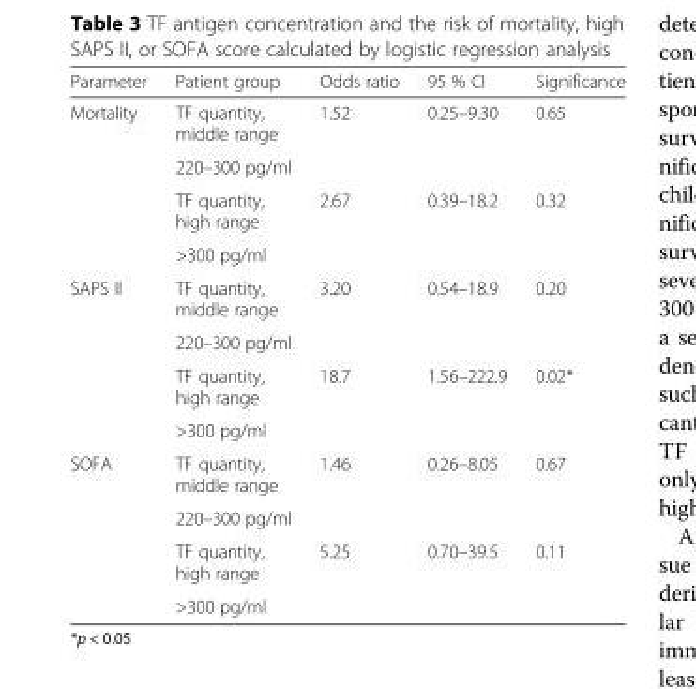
<table><thead><tr><td>Parameter</td><td>Patient group</td><td>Odds ratio</td><td>95 % CI</td><td>Significance</td></tr></thead><tbody><tr><td rowspan="4">Mortality</td><td>TF quantity, middle range</td><td rowspan="2">1.52</td><td rowspan="2">0.25–9.30</td><td rowspan="2">0.65</td></tr><tr><td>220–300 pg/ml</td></tr><tr><td>TF quantity, high range</td><td rowspan="2">2.67</td><td rowspan="2">0.39–18.2</td><td rowspan="2">0.32</td></tr><tr><td>&gt;300 pg/ml</td></tr><tr><td rowspan="4">SAPS II</td><td>TF quantity, middle range</td><td rowspan="2">3.20</td><td rowspan="2">0.54–18.9</td><td rowspan="2">0.20</td></tr><tr><td>220–300 pg/ml</td></tr><tr><td>TF quantity, high range</td><td rowspan="2">18.7</td><td rowspan="2">1.56–222.9</td><td rowspan="2">0.02*</td></tr><tr><td>&gt;300 pg/ml</td></tr><tr><td rowspan="4">SOFA</td><td>TF quantity, middle range</td><td rowspan="2">1.46</td><td rowspan="2">0.26–8.05</td><td rowspan="2">0.67</td></tr><tr><td>220–300 pg/ml</td></tr><tr><td>TF quantity, high range</td><td rowspan="2">5.25</td><td rowspan="2">0.70–39.5</td><td rowspan="2">0.11</td></tr><tr><td>&gt;300 pg/ml</td></tr></tbody></table>